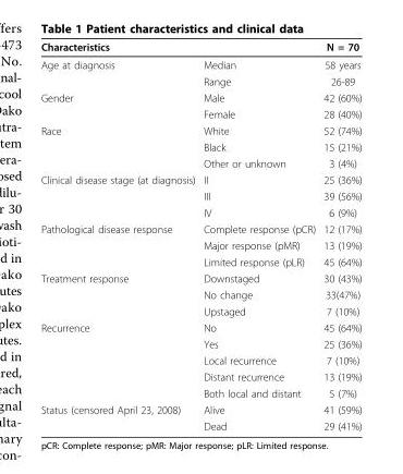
<table><thead><tr><td>Characteristics</td><td></td><td>N = 70</td></tr></thead><tbody><tr><td rowspan="2">Age at diagnosis</td><td>Median</td><td>58 years</td></tr><tr><td>Range</td><td>26-89</td></tr><tr><td rowspan="2">Gender</td><td>Male</td><td>42 (60%)</td></tr><tr><td>Female</td><td>28 (40%)</td></tr><tr><td rowspan="3">Race</td><td>White</td><td>52 (74%)</td></tr><tr><td>Black</td><td>15 (21%)</td></tr><tr><td>Other or unknown</td><td>3 (4%)</td></tr><tr><td rowspan="3">Clinical disease stage (at diagnosis)</td><td>II</td><td>25 (36%)</td></tr><tr><td>III</td><td>39 (56%)</td></tr><tr><td>IV</td><td>6 (9%)</td></tr><tr><td rowspan="3">Pathological disease response</td><td>Complete response (pCR)</td><td>12 (17%)</td></tr><tr><td>Major response (pMR)</td><td>13 (19%)</td></tr><tr><td>Limited response (pLR)</td><td>45 (64%)</td></tr><tr><td rowspan="3">Treatment response</td><td>Downstaged</td><td>30 (43%)</td></tr><tr><td>No change</td><td>33(47%)</td></tr><tr><td>Upstaged</td><td>7 (10%)</td></tr><tr><td rowspan="5">Recurrence</td><td>No</td><td>45 (64%)</td></tr><tr><td>Yes</td><td>25 (36%)</td></tr><tr><td>Local recurrence</td><td>7 (10%)</td></tr><tr><td>Distant recurrence</td><td>13 (19%)</td></tr><tr><td>Both local and distant</td><td>5 (7%)</td></tr><tr><td rowspan="2">Status (censored April 23, 2008)</td><td>Alive</td><td>41 (59%)</td></tr><tr><td>Dead</td><td>29 (41%)</td></tr></tbody></table>